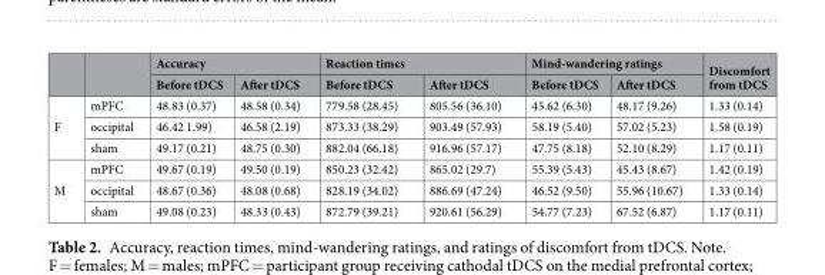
<table><thead><tr><td rowspan="2"></td><td rowspan="2"></td><td colspan="2">Accuracy</td><td colspan="2">Reaction times</td><td colspan="2">Mind-wandering ratings</td><td rowspan="2">Discomfort from tDCS</td></tr><tr><td>Before tDCS</td><td>After tDCS</td><td>Before tDCS</td><td>After tDCS</td><td>Before tDCS</td><td>After tDCS</td></tr></thead><tbody><tr><td rowspan="3">F</td><td>mPFC</td><td>48.83 (0.37)</td><td>48.58 (0.34)</td><td>779.58 (28.45)</td><td>805.56 (36.10)</td><td>45.62 (6.30)</td><td>48.17 (9.26)</td><td>1.33 (0.14)</td></tr><tr><td>occipital</td><td>46.42 1.99)</td><td>46.58 (2.19)</td><td>873.33 (38.29)</td><td>903.49 (57.93)</td><td>58.19 (5.40)</td><td>57.02 (5.23)</td><td>1.58 (0.19)</td></tr><tr><td>sham</td><td>49.17 (0.21)</td><td>48.75 (0.30)</td><td>882.04 (66.18)</td><td>916.96 (57.17)</td><td>47.75 (8.18)</td><td>52.10 (8.29)</td><td>1.17 (0.11)</td></tr><tr><td rowspan="3">M</td><td>mPFC</td><td>49.67 (0.19)</td><td>49.50 (0.19)</td><td>850.23 (32.42)</td><td>865.02 (29.7)</td><td>55.39 (5.43)</td><td>45.43 (8.67)</td><td>1.42 (0.19)</td></tr><tr><td>occipital</td><td>48.67 (0.36)</td><td>48.08 (0.68)</td><td>828.19 (34.02)</td><td>886.69 (47.24)</td><td>46.52 (9.50)</td><td>55.96 (10.67)</td><td>1.33 (0.14)</td></tr><tr><td>sham</td><td>49.08 (0.23)</td><td>48.33 (0.43)</td><td>872.79 (39.21)</td><td>920.61 (56.29)</td><td>54.77 (7.23)</td><td>67.52 (6.87)</td><td>1.17 (0.11)</td></tr></tbody></table>